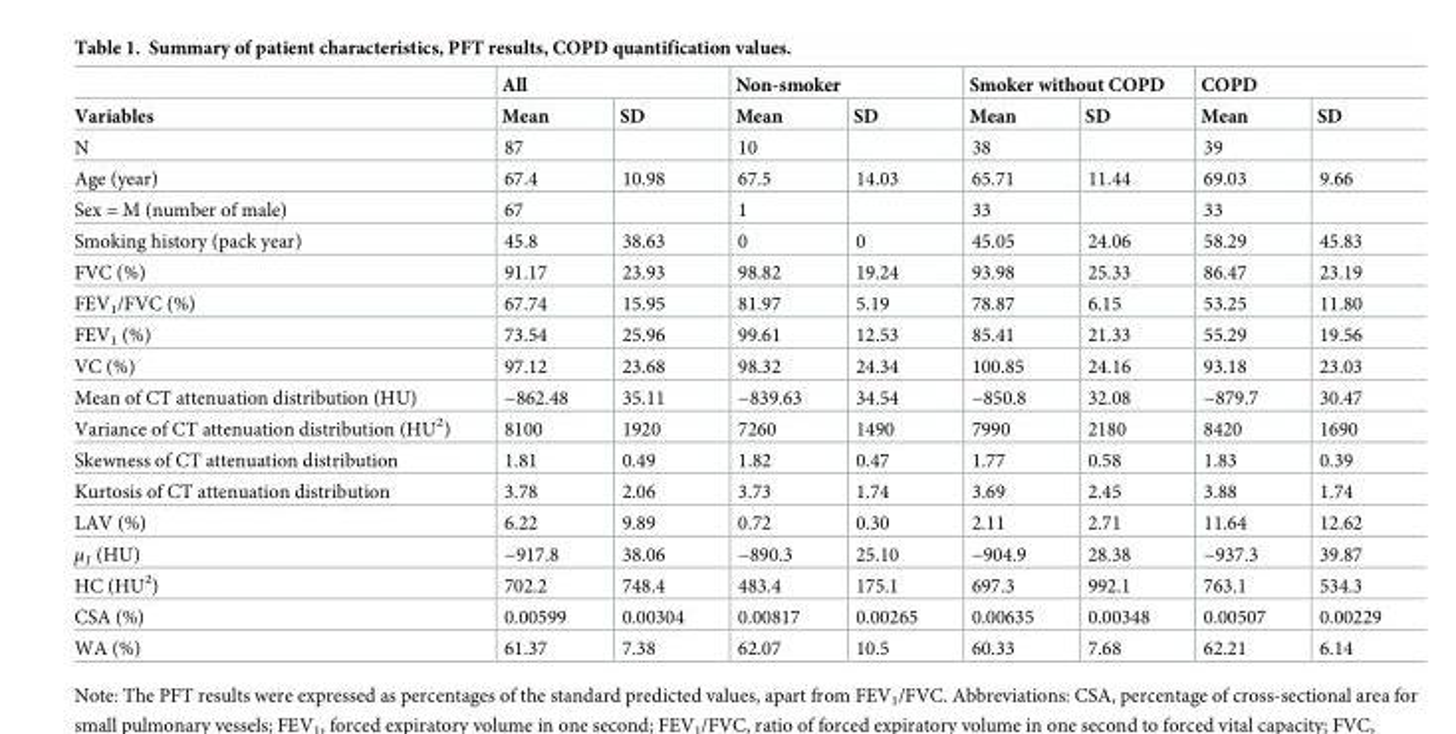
<table><thead><tr><td rowspan="2">Variables</td><td colspan="2">All</td><td colspan="2">Non-smoker</td><td colspan="2">Smoker without COPD</td><td colspan="2">COPD</td></tr><tr><td>Mean</td><td>SD</td><td>Mean</td><td>SD</td><td>Mean</td><td>SD</td><td>Mean</td><td>SD</td></tr></thead><tbody><tr><td>N</td><td>87</td><td></td><td>10</td><td></td><td>38</td><td></td><td>39</td><td></td></tr><tr><td>Age (year)</td><td>67.4</td><td>10.98</td><td>67.5</td><td>14.03</td><td>65.71</td><td>11.44</td><td>69.03</td><td>9.66</td></tr><tr><td>Sex = M (number of male)</td><td>67</td><td></td><td>1</td><td></td><td>33</td><td></td><td>33</td><td></td></tr><tr><td>Smoking history (pack year)</td><td>45.8</td><td>38.63</td><td>0</td><td>0</td><td>45.05</td><td>24.06</td><td>58.29</td><td>45.83</td></tr><tr><td>FVC (%)</td><td>91.17</td><td>23.93</td><td>98.82</td><td>19.24</td><td>93.98</td><td>25.33</td><td>86.47</td><td>23.19</td></tr><tr><td>FEV<sub>1</sub>/FVC (%)</td><td>67.74</td><td>15.95</td><td>81.97</td><td>5.19</td><td>78.87</td><td>6.15</td><td>53.25</td><td>11.80</td></tr><tr><td>FEV<sub>1</sub> (%)</td><td>73.54</td><td>25.96</td><td>99.61</td><td>12.53</td><td>85.41</td><td>21.33</td><td>55.29</td><td>19.56</td></tr><tr><td>VC (%)</td><td>97.12</td><td>23.68</td><td>98.32</td><td>24.34</td><td>100.85</td><td>24.16</td><td>93.18</td><td>23.03</td></tr><tr><td>Mean of CT attenuation distribution (HU)</td><td>−862.48</td><td>35.11</td><td>−839.63</td><td>34.54</td><td>−850.8</td><td>32.08</td><td>−879.7</td><td>30.47</td></tr><tr><td>Variance of CT attenuation distribution (HU<sup>2</sup>)</td><td>8100</td><td>1920</td><td>7260</td><td>1490</td><td>7990</td><td>2180</td><td>8420</td><td>1690</td></tr><tr><td>Skewness of CT attenuation distribution</td><td>1.81</td><td>0.49</td><td>1.82</td><td>0.47</td><td>1.77</td><td>0.58</td><td>1.83</td><td>0.39</td></tr><tr><td>Kurtosis of CT attenuation distribution</td><td>3.78</td><td>2.06</td><td>3.73</td><td>1.74</td><td>3.69</td><td>2.45</td><td>3.88</td><td>1.74</td></tr><tr><td>LAV (%)</td><td>6.22</td><td>9.89</td><td>0.72</td><td>0.30</td><td>2.11</td><td>2.71</td><td>11.64</td><td>12.62</td></tr><tr><td>μ<sub>1</sub> (HU)</td><td>−917.8</td><td>38.06</td><td>−890.3</td><td>25.10</td><td>−904.9</td><td>28.38</td><td>−937.3</td><td>39.87</td></tr><tr><td>HC (HU<sup>2</sup>)</td><td>702.2</td><td>748.4</td><td>483.4</td><td>175.1</td><td>697.3</td><td>992.1</td><td>763.1</td><td>534.3</td></tr><tr><td>CSA (%)</td><td>0.00599</td><td>0.00304</td><td>0.00817</td><td>0.00265</td><td>0.00635</td><td>0.00348</td><td>0.00507</td><td>0.00229</td></tr><tr><td>WA (%)</td><td>61.37</td><td>7.38</td><td>62.07</td><td>10.5</td><td>60.33</td><td>7.68</td><td>62.21</td><td>6.14</td></tr></tbody></table>